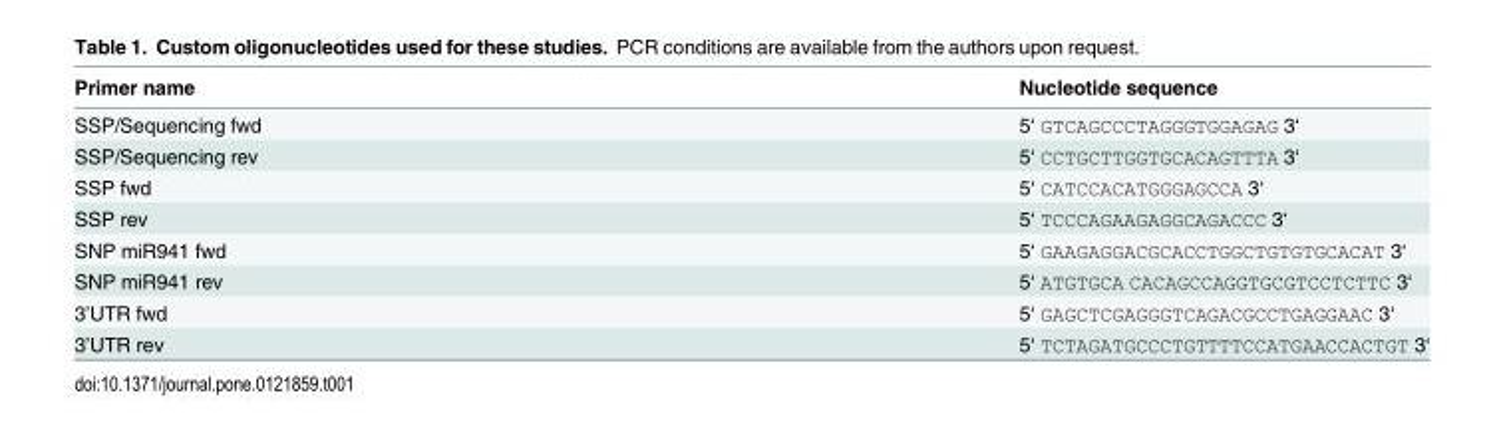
<table><thead><tr><td>Primer name</td><td>Nucleotide sequence</td></tr></thead><tbody><tr><td>SSP/Sequencing fwd</td><td>5‘ GTCAGCCCTAGGGTGGAGAG 3‘</td></tr><tr><td>SSP/Sequencing rev</td><td>5‘ CCTGCTTGGTGCACAGTTTA 3‘</td></tr><tr><td>SSP fwd</td><td>5‘ CATCCACATGGGAGCCA 3‘</td></tr><tr><td>SSP rev</td><td>5‘ TCCCAGAAGAGGCAGACCC 3‘</td></tr><tr><td>SNP miR941 fwd</td><td>5‘ GAAGAGGACGCACCTGGCTGTGTGCACAT 3‘</td></tr><tr><td>SNP miR941 rev</td><td>5‘ ATGTGCA CACAGCCAGGTGCGTCCTCTTC 3‘</td></tr><tr><td>3’UTR fwd</td><td>5‘ GAGCTCGAGGGTCAGACGCCTGAGGAAC 3‘</td></tr><tr><td>3’UTR rev</td><td>5‘ TCTAGATGCCCTGTTTTCCATGAACCACTGT 3‘</td></tr></tbody></table>